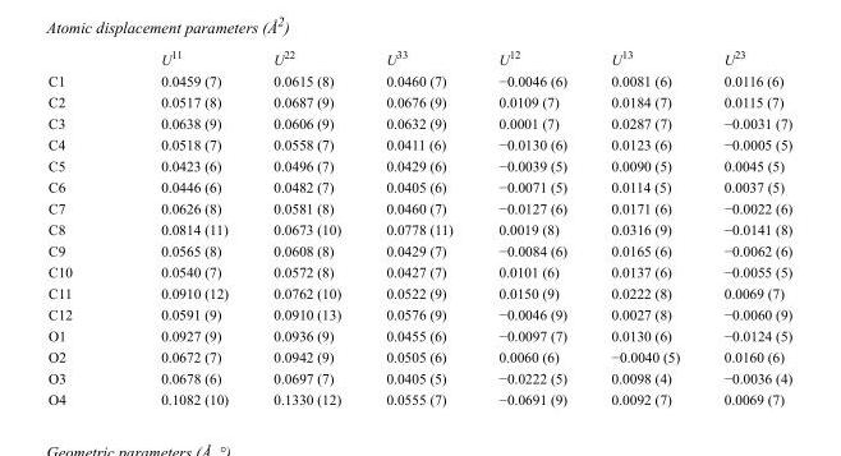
<table><thead><tr><td></td><td>U<sup>11</sup></td><td>U<sup>22</sup></td><td>U<sup>33</sup></td><td>U<sup>12</sup></td><td>U<sup>13</sup></td><td>U<sup>23</sup></td></tr></thead><tbody><tr><td>C1</td><td>0.0459 (7)</td><td>0.0615 (8)</td><td>0.0460 (7)</td><td>−0.0046 (6)</td><td>0.0081 (6)</td><td>0.0116 (6)</td></tr><tr><td>C2</td><td>0.0517 (8)</td><td>0.0687 (9)</td><td>0.0676 (9)</td><td>0.0109 (7)</td><td>0.0184 (7)</td><td>0.0115 (7)</td></tr><tr><td>C3</td><td>0.0638 (9)</td><td>0.0606 (9)</td><td>0.0632 (9)</td><td>0.0001 (7)</td><td>0.0287 (7)</td><td>−0.0031 (7)</td></tr><tr><td>C4</td><td>0.0518 (7)</td><td>0.0558 (7)</td><td>0.0411 (6)</td><td>−0.0130 (6)</td><td>0.0123 (6)</td><td>−0.0005 (5)</td></tr><tr><td>C5</td><td>0.0423 (6)</td><td>0.0496 (7)</td><td>0.0429 (6)</td><td>−0.0039 (5)</td><td>0.0090 (5)</td><td>0.0045 (5)</td></tr><tr><td>C6</td><td>0.0446 (6)</td><td>0.0482 (7)</td><td>0.0405 (6)</td><td>−0.0071 (5)</td><td>0.0114 (5)</td><td>0.0037 (5)</td></tr><tr><td>C7</td><td>0.0626 (8)</td><td>0.0581 (8)</td><td>0.0460 (7)</td><td>−0.0127 (6)</td><td>0.0171 (6)</td><td>−0.0022 (6)</td></tr><tr><td>C8</td><td>0.0814 (11)</td><td>0.0673 (10)</td><td>0.0778 (11)</td><td>0.0019 (8)</td><td>0.0316 (9)</td><td>−0.0141 (8)</td></tr><tr><td>C9</td><td>0.0565 (8)</td><td>0.0608 (8)</td><td>0.0429 (7)</td><td>−0.0084 (6)</td><td>0.0165 (6)</td><td>−0.0062 (6)</td></tr><tr><td>C10</td><td>0.0540 (7)</td><td>0.0572 (8)</td><td>0.0427 (7)</td><td>0.0101 (6)</td><td>0.0137 (6)</td><td>−0.0055 (5)</td></tr><tr><td>C11</td><td>0.0910 (12)</td><td>0.0762 (10)</td><td>0.0522 (9)</td><td>0.0150 (9)</td><td>0.0222 (8)</td><td>0.0069 (7)</td></tr><tr><td>C12</td><td>0.0591 (9)</td><td>0.0910 (13)</td><td>0.0576 (9)</td><td>−0.0046 (9)</td><td>0.0027 (8)</td><td>−0.0060 (9)</td></tr><tr><td>O1</td><td>0.0927 (9)</td><td>0.0936 (9)</td><td>0.0455 (6)</td><td>−0.0097 (7)</td><td>0.0130 (6)</td><td>−0.0124 (5)</td></tr><tr><td>O2</td><td>0.0672 (7)</td><td>0.0942 (9)</td><td>0.0505 (6)</td><td>0.0060 (6)</td><td>−0.0040 (5)</td><td>0.0160 (6)</td></tr><tr><td>O3</td><td>0.0678 (6)</td><td>0.0697 (7)</td><td>0.0405 (5)</td><td>−0.0222 (5)</td><td>0.0098 (4)</td><td>−0.0036 (4)</td></tr><tr><td>O4</td><td>0.1082 (10)</td><td>0.1330 (12)</td><td>0.0555 (7)</td><td>−0.0691 (9)</td><td>0.0092 (7)</td><td>0.0069 (7)</td></tr></tbody></table>